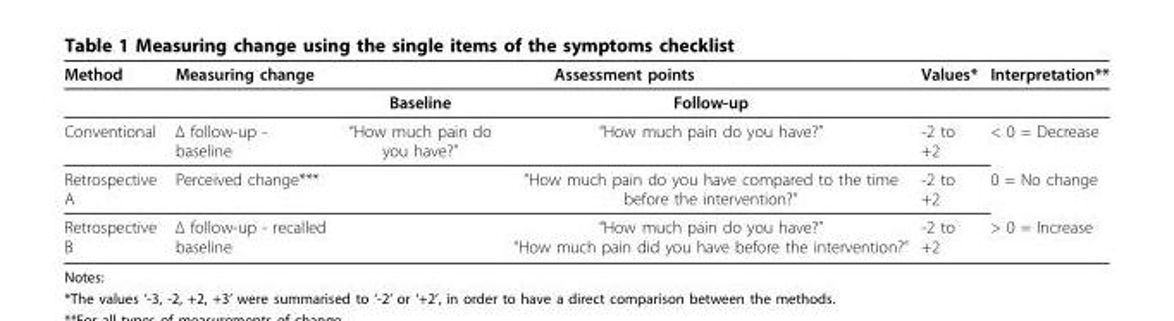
<table><thead><tr><td rowspan="2">Method</td><td rowspan="2">Measuring change</td><td colspan="2">Assessment points</td><td rowspan="2">Values*</td><td rowspan="2">Interpretation**</td></tr><tr><td>Baseline</td><td>Follow-up</td></tr></thead><tbody><tr><td>Conventional</td><td>Δ follow-up - baseline</td><td>“How much pain do you have?”</td><td>“How much pain do you have?”</td><td>-2 to +2</td><td>&lt; 0 = Decrease</td></tr><tr><td>Retrospective A</td><td>Perceived change***</td><td></td><td>“How much pain do you have compared to the time before the intervention?”</td><td>-2 to +2</td><td>0 = No change</td></tr><tr><td>Retrospective B</td><td>Δ follow-up - recalled baseline</td><td></td><td>“How much pain do you have?” “How much pain did you have before the intervention?”</td><td>-2 to +2</td><td>&gt; 0 = Increase</td></tr></tbody></table>